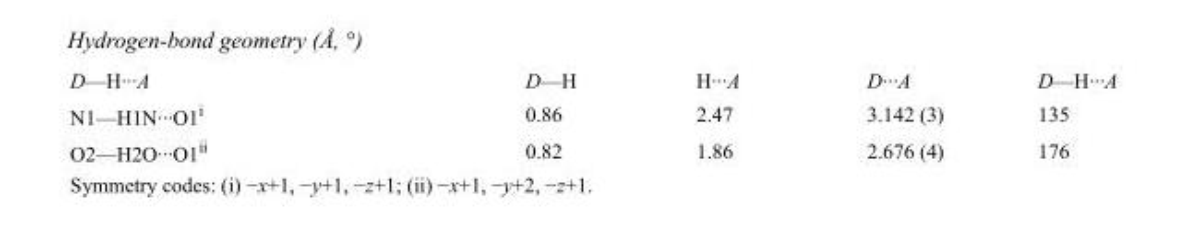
<table><tbody><tr><td>D—H···A</td><td>D—H</td><td>H···A</td><td>D···A</td><td>D—H···A</td></tr><tr><td>N1—H1N···O1<sup>i</sup></td><td>0.86</td><td>2.47</td><td>3.142 (3)</td><td>135</td></tr><tr><td>O2—H2O···O1<sup>ii</sup></td><td>0.82</td><td>1.86</td><td>2.676 (4)</td><td>176</td></tr></tbody></table>